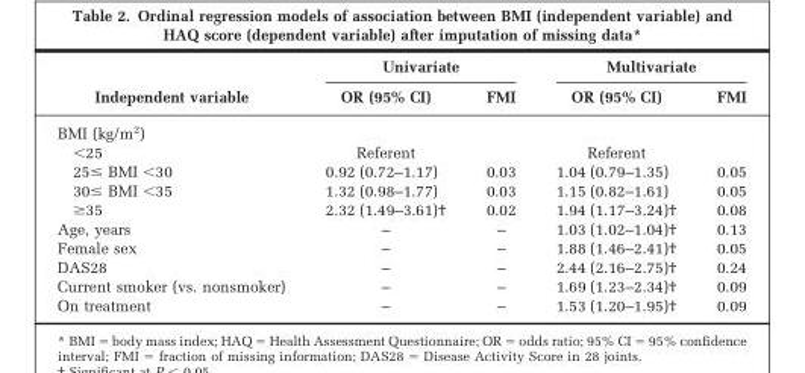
<table><thead><tr><td rowspan="2">Independent variable</td><td colspan="2">Univariate</td><td colspan="2">Multivariate</td></tr><tr><td>OR (95% CI)</td><td>FMI</td><td>OR (95% CI)</td><td>FMI</td></tr></thead><tbody><tr><td colspan="5">BMI (kg/m<sup>2</sup>)</td></tr><tr><td>&lt;25</td><td>Referent</td><td></td><td>Referent</td><td></td></tr><tr><td>25≤ BMI &lt;30</td><td>0.92 (0.72–1.17)</td><td>0.03</td><td>1.04 (0.79–1.35)</td><td>0.05</td></tr><tr><td>30≤ BMI &lt;35</td><td>1.32 (0.98–1.77)</td><td>0.03</td><td>1.15 (0.82–1.61)</td><td>0.05</td></tr><tr><td>≥35</td><td>2.32 (1.49–3.61)†</td><td>0.02</td><td>1.94 (1.17–3.24)†</td><td>0.08</td></tr><tr><td>Age, years</td><td>–</td><td>–</td><td>1.03 (1.02–1.04)†</td><td>0.13</td></tr><tr><td>Female sex</td><td>–</td><td>–</td><td>1.88 (1.46–2.41)†</td><td>0.05</td></tr><tr><td>DAS28</td><td>–</td><td>–</td><td>2.44 (2.16–2.75)†</td><td>0.24</td></tr><tr><td>Current smoker (vs. nonsmoker)</td><td>–</td><td>–</td><td>1.69 (1.23–2.34)†</td><td>0.09</td></tr><tr><td>On treatment</td><td>–</td><td>–</td><td>1.53 (1.20–1.95)†</td><td>0.09</td></tr></tbody></table>